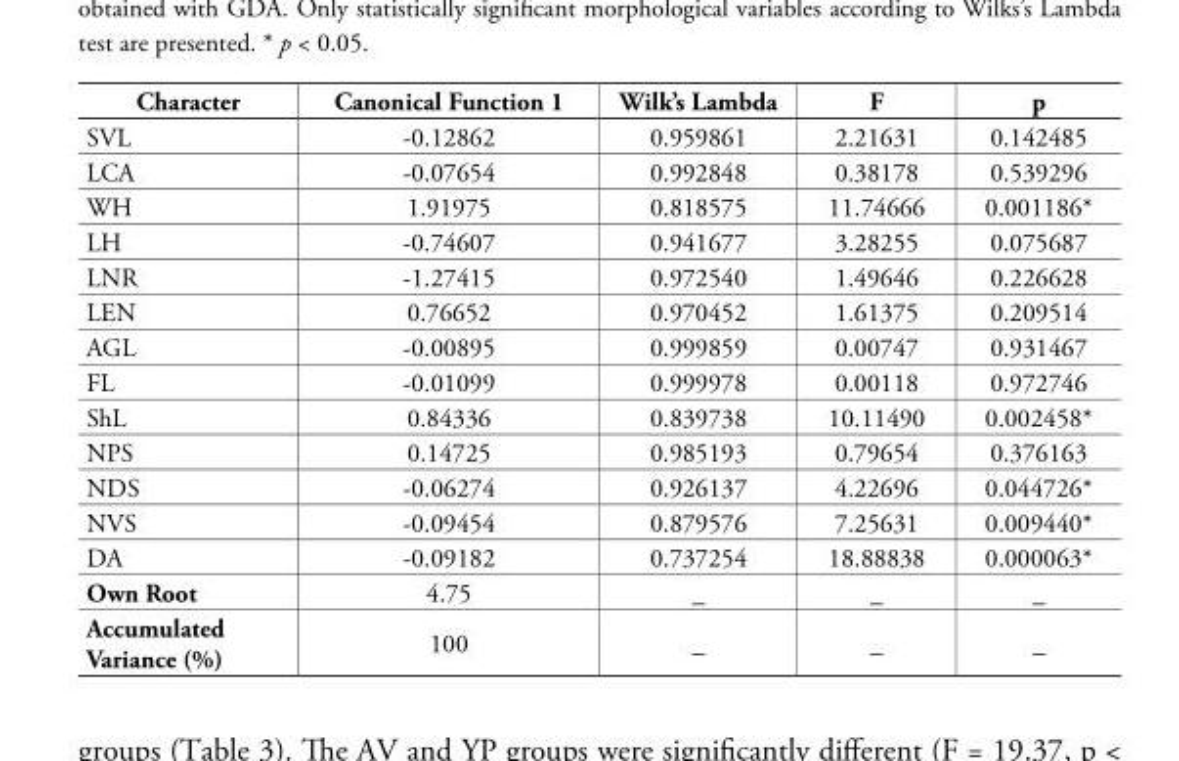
<table><thead><tr><td>Character</td><td>Canonical Function 1</td><td>Wilk’s Lambda</td><td>F</td><td>p</td></tr></thead><tbody><tr><td>SVL</td><td>-0.12862</td><td>0.959861</td><td>2.21631</td><td>0.142485</td></tr><tr><td>LCA</td><td>-0.07654</td><td>0.992848</td><td>0.38178</td><td>0.539296</td></tr><tr><td>WH</td><td>1.91975</td><td>0.818575</td><td>11.74666</td><td>0.001186*</td></tr><tr><td>LH</td><td>-0.74607</td><td>0.941677</td><td>3.28255</td><td>0.075687</td></tr><tr><td>LNR</td><td>-1.27415</td><td>0.972540</td><td>1.49646</td><td>0.226628</td></tr><tr><td>LEN</td><td>0.76652</td><td>0.970452</td><td>1.61375</td><td>0.209514</td></tr><tr><td>AGL</td><td>-0.00895</td><td>0.999859</td><td>0.00747</td><td>0.931467</td></tr><tr><td>FL</td><td>-0.01099</td><td>0.999978</td><td>0.00118</td><td>0.972746</td></tr><tr><td>ShL</td><td>0.84336</td><td>0.839738</td><td>10.11490</td><td>0.002458*</td></tr><tr><td>NPS</td><td>0.14725</td><td>0.985193</td><td>0.79654</td><td>0.376163</td></tr><tr><td>NDS</td><td>-0.06274</td><td>0.926137</td><td>4.22696</td><td>0.044726*</td></tr><tr><td>NVS</td><td>-0.09454</td><td>0.879576</td><td>7.25631</td><td>0.009440*</td></tr><tr><td>DA</td><td>-0.09182</td><td>0.737254</td><td>18.88838</td><td>0.000063*</td></tr><tr><td>Own Root</td><td>4.75</td><td>_</td><td>_</td><td>_</td></tr><tr><td>Accumulated Variance (%)</td><td>100</td><td>_</td><td>_</td><td>_</td></tr></tbody></table>